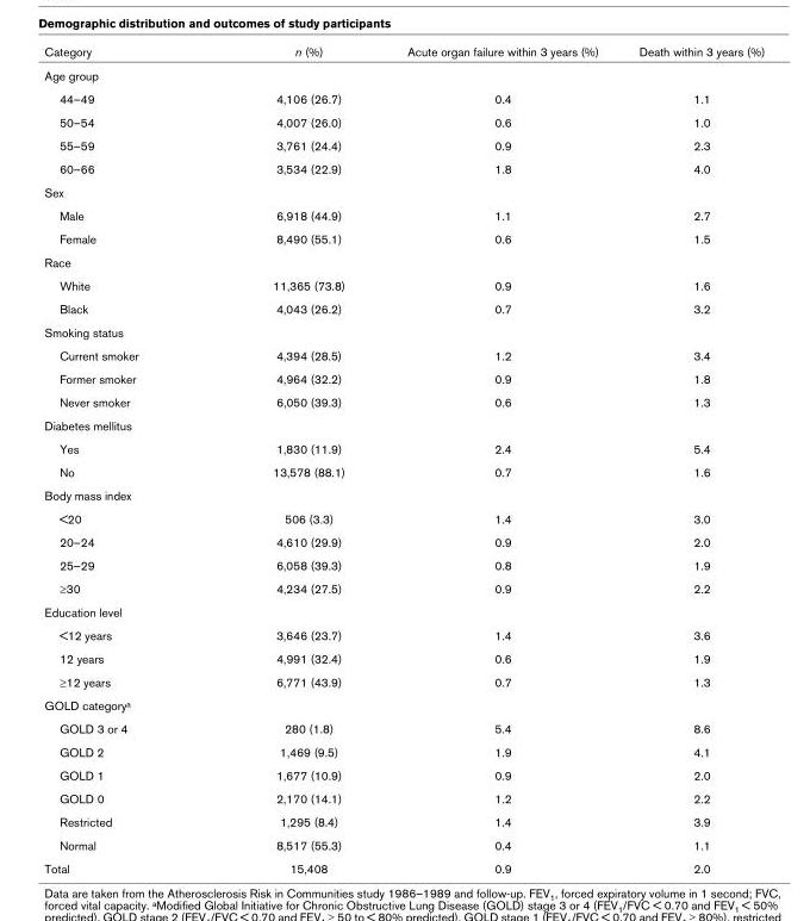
<table><thead><tr><td>Category</td><td>n (%)</td><td>Acute organ failure within 3 years (%)</td><td>Death within 3 years (%)</td></tr></thead><tbody><tr><td colspan="4">Age group</td></tr><tr><td>44–49</td><td>4,106 (26.7)</td><td>0.4</td><td>1.1</td></tr><tr><td>50–54</td><td>4,007 (26.0)</td><td>0.6</td><td>1.0</td></tr><tr><td>55–59</td><td>3,761 (24.4)</td><td>0.9</td><td>2.3</td></tr><tr><td>60–66</td><td>3,534 (22.9)</td><td>1.8</td><td>4.0</td></tr><tr><td colspan="4">Sex</td></tr><tr><td>Male</td><td>6,918 (44.9)</td><td>1.1</td><td>2.7</td></tr><tr><td>Female</td><td>8,490 (55.1)</td><td>0.6</td><td>1.5</td></tr><tr><td colspan="4">Race</td></tr><tr><td>White</td><td>11,365 (73.8)</td><td>0.9</td><td>1.6</td></tr><tr><td>Black</td><td>4,043 (26.2)</td><td>0.7</td><td>3.2</td></tr><tr><td colspan="4">Smoking status</td></tr><tr><td>Current smoker</td><td>4,394 (28.5)</td><td>1.2</td><td>3.4</td></tr><tr><td>Former smoker</td><td>4,964 (32.2)</td><td>0.9</td><td>1.8</td></tr><tr><td>Never smoker</td><td>6,050 (39.3)</td><td>0.6</td><td>1.3</td></tr><tr><td colspan="4">Diabetes mellitus</td></tr><tr><td>Yes</td><td>1,830 (11.9)</td><td>2.4</td><td>5.4</td></tr><tr><td>No</td><td>13,578 (88.1)</td><td>0.7</td><td>1.6</td></tr><tr><td colspan="4">Body mass index</td></tr><tr><td>&lt;20</td><td>506 (3.3)</td><td>1.4</td><td>3.0</td></tr><tr><td>20–24</td><td>4,610 (29.9)</td><td>0.9</td><td>2.0</td></tr><tr><td>25–29</td><td>6,058 (39.3)</td><td>0.8</td><td>1.9</td></tr><tr><td>≥30</td><td>4,234 (27.5)</td><td>0.9</td><td>2.2</td></tr><tr><td colspan="4">Education level</td></tr><tr><td>&lt;12 years</td><td>3,646 (23.7)</td><td>1.4</td><td>3.6</td></tr><tr><td>12 years</td><td>4,991 (32.4)</td><td>0.6</td><td>1.9</td></tr><tr><td>≥12 years</td><td>6,771 (43.9)</td><td>0.7</td><td>1.3</td></tr><tr><td colspan="4">GOLD categorya</td></tr><tr><td>GOLD 3 or 4</td><td>280 (1.8)</td><td>5.4</td><td>8.6</td></tr><tr><td>GOLD 2</td><td>1,469 (9.5)</td><td>1.9</td><td>4.1</td></tr><tr><td>GOLD 1</td><td>1,677 (10.9)</td><td>0.9</td><td>2.0</td></tr><tr><td>GOLD 0</td><td>2,170 (14.1)</td><td>1.2</td><td>2.2</td></tr><tr><td>Restricted</td><td>1,295 (8.4)</td><td>1.4</td><td>3.9</td></tr><tr><td>Normal</td><td>8,517 (55.3)</td><td>0.4</td><td>1.1</td></tr><tr><td>Total</td><td>15,408</td><td>0.9</td><td>2.0</td></tr></tbody></table>